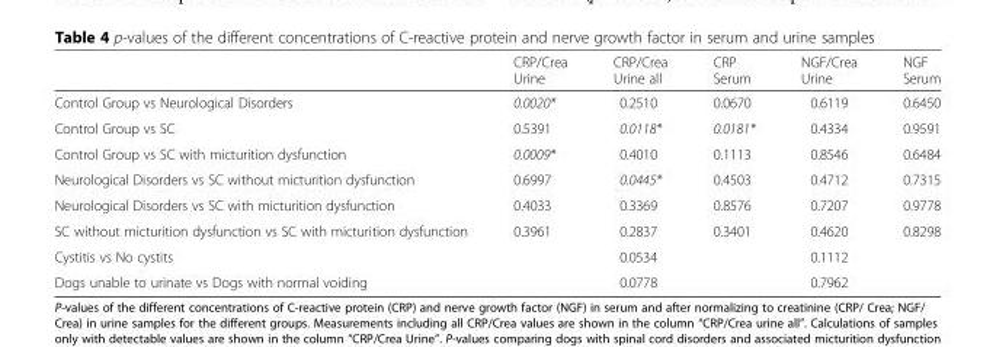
<table><thead><tr><td></td><td>CRP/Crea Urine</td><td>CRP/Crea Urine all</td><td>CRP Serum</td><td>NGF/Crea Urine</td><td>NGF Serum</td></tr></thead><tbody><tr><td>Control Group vs Neurological Disorders</td><td>0.0020*</td><td>0.2510</td><td>0.0670</td><td>0.6119</td><td>0.6450</td></tr><tr><td>Control Group vs SC</td><td>0.5391</td><td>0.0118*</td><td>0.0181*</td><td>0.4334</td><td>0.9591</td></tr><tr><td>Control Group vs SC with micturition dysfunction</td><td>0.0009*</td><td>0.4010</td><td>0.1113</td><td>0.8546</td><td>0.6484</td></tr><tr><td>Neurological Disorders vs SC without micturition dysfunction</td><td>0.6997</td><td>0.0445*</td><td>0.4503</td><td>0.4712</td><td>0.7315</td></tr><tr><td>Neurological Disorders vs SC with micturition dysfunction</td><td>0.4033</td><td>0.3369</td><td>0.8576</td><td>0.7207</td><td>0.9778</td></tr><tr><td>SC without micturition dysfunction vs SC with micturition dysfunction</td><td>0.3961</td><td>0.2837</td><td>0.3401</td><td>0.4620</td><td>0.8298</td></tr><tr><td>Cystitis vs No cystits</td><td></td><td>0.0534</td><td></td><td>0.1112</td><td></td></tr><tr><td>Dogs unable to urinate vs Dogs with normal voiding</td><td></td><td>0.0778</td><td></td><td>0.7962</td><td></td></tr></tbody></table>